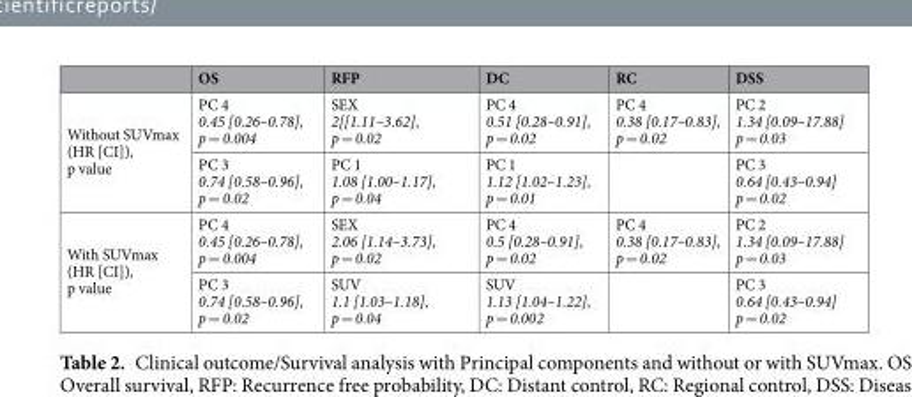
<table><thead><tr><td></td><td>OS</td><td>RFP</td><td>DC</td><td>RC</td><td>DSS</td></tr></thead><tbody><tr><td rowspan="2">Without SUVmax (HR [CI]), p value</td><td>PC 4 0.45 [0.26–0.78], p = 0.004</td><td>SEX 2[[1.11–3.62], p = 0.02</td><td>PC 4 0.51 [0.28–0.91], p = 0.02</td><td>PC 4 0.38 [0.17–0.83], p = 0.02</td><td>PC 2 1.34 [0.09–17.88] p = 0.03</td></tr><tr><td>PC 3 0.74 [0.58–0.96], p = 0.02</td><td>PC 1 1.08 [1.00–1.17], p = 0.04</td><td>PC 1 1.12 [1.02–1.23], p = 0.01</td><td></td><td>PC 3 0.64 [0.43–0.94] p = 0.02</td></tr><tr><td rowspan="2">With SUVmax (HR [CI]), p value</td><td>PC 4 0.45 [0.26–0.78], p = 0.004</td><td>SEX 2.06 [1.14–3.73], p = 0.02</td><td>PC 4 0.5 [0.28–0.91], p = 0.02</td><td>PC 4 0.38 [0.17–0.83], p = 0.02</td><td>PC 2 1.34 [0.09–17.88] p = 0.03</td></tr><tr><td>PC 3 0.74 [0.58–0.96], p = 0.02</td><td>SUV 1.1 [1.03–1.18], p = 0.04</td><td>SUV 1.13 [1.04–1.22], p = 0.002</td><td></td><td>PC 3 0.64 [0.43–0.94] p = 0.02</td></tr></tbody></table>